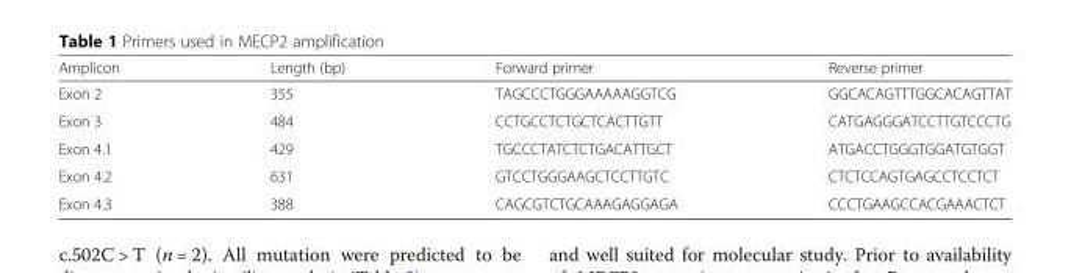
<table><thead><tr><td>Amplicon</td><td>Length (bp)</td><td>Forward primer</td><td>Reverse primer</td></tr></thead><tbody><tr><td>Exon 2</td><td>355</td><td>TAGCCCTGGGAAAAAGGTCG</td><td>GGCACAGTTTGGCACAGTTAT</td></tr><tr><td>Exon 3</td><td>484</td><td>CCTGCCTCTGCTCACTTGTT</td><td>CATGAGGGATCCTTGTCCCTG</td></tr><tr><td>Exon 4.1</td><td>429</td><td>TGCCCTATCTCTGACATTGCT</td><td>ATGACCTGGGTGGATGTGGT</td></tr><tr><td>Exon 4.2</td><td>631</td><td>GTCCTGGGAAGCTCCTTGTC</td><td>CTCTCCAGTGAGCCTCCTCT</td></tr><tr><td>Exon 4.3</td><td>388</td><td>CAGCGTCTGCAAAGAGGAGA</td><td>CCCTGAAGCCACGAAACTCT</td></tr></tbody></table>